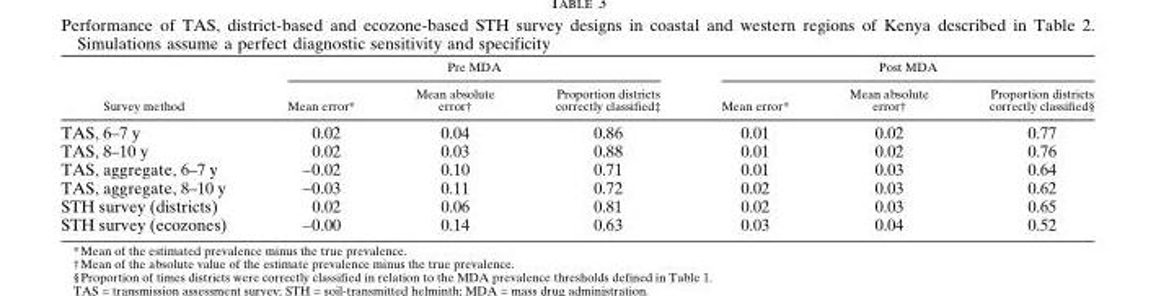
<table><thead><tr><td rowspan="2">Survey method</td><td colspan="3">Pre MDA</td><td colspan="3">Post MDA</td></tr><tr><td>Mean error*</td><td>Mean absolute error†</td><td>Proportion districts correctly classified‡</td><td>Mean error*</td><td>Mean absolute error†</td><td>Proportion districts correctly classified§</td></tr></thead><tbody><tr><td>TAS, 6–7 y</td><td>0.02</td><td>0.04</td><td>0.86</td><td>0.01</td><td>0.02</td><td>0.77</td></tr><tr><td>TAS, 8–10 y</td><td>0.02</td><td>0.03</td><td>0.88</td><td>0.01</td><td>0.02</td><td>0.76</td></tr><tr><td>TAS, aggregate, 6–7 y</td><td>−0.02</td><td>0.10</td><td>0.71</td><td>0.01</td><td>0.03</td><td>0.64</td></tr><tr><td>TAS, aggregate, 8–10 y</td><td>−0.03</td><td>0.11</td><td>0.72</td><td>0.02</td><td>0.03</td><td>0.62</td></tr><tr><td>STH survey (districts)</td><td>0.02</td><td>0.06</td><td>0.81</td><td>0.02</td><td>0.03</td><td>0.65</td></tr><tr><td>STH survey (ecozones)</td><td>−0.00</td><td>0.14</td><td>0.63</td><td>0.03</td><td>0.04</td><td>0.52</td></tr></tbody></table>